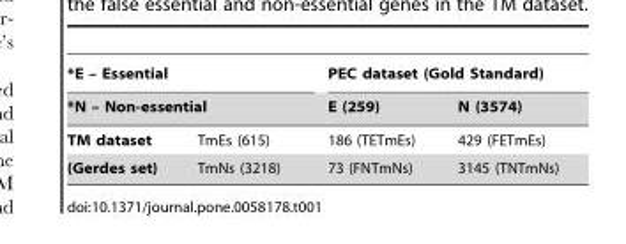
<table><thead><tr><td rowspan="2" colspan="2">*E – Essential *N – Non-essential</td><td colspan="2">PEC dataset (Gold Standard)</td></tr><tr><td rowspan="2">E (259) 186 (TETmEs)</td><td rowspan="2">N (3574) 429 (FETmEs)</td></tr><tr><td>TM dataset</td><td>TmEs (615)</td></tr></thead><tbody><tr><td>(Gerdes set)</td><td>TmNs (3218)</td><td>73 (FNTmNs)</td><td>3145 (TNTmNs)</td></tr></tbody></table>